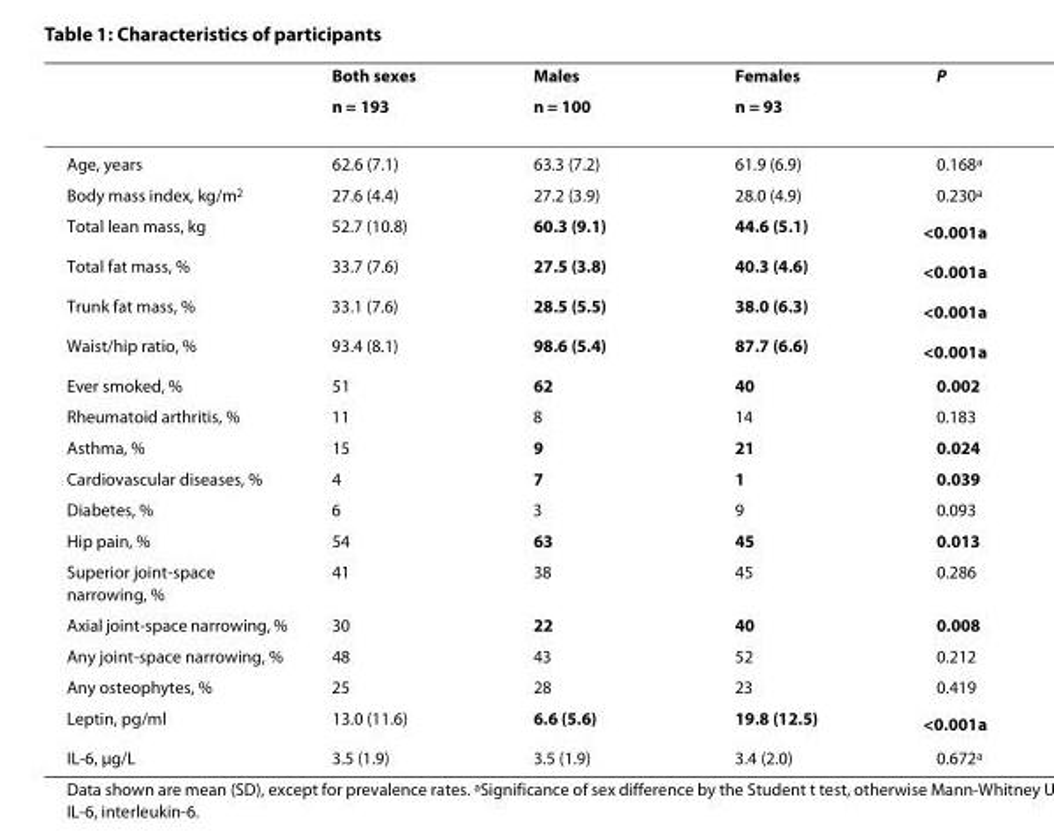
<table><thead><tr><td rowspan="2"></td><td rowspan="2">Both sexes n = 193</td><td rowspan="2">Males n = 100</td><td rowspan="2">Females n = 93</td><td rowspan="2">P</td></tr><tr></tr></thead><tbody><tr><td>Age, years</td><td>62.6 (7.1)</td><td>63.3 (7.2)</td><td>61.9 (6.9)</td><td>0.168<sup>a</sup></td></tr><tr><td>Body mass index, kg/m<sup>2</sup></td><td>27.6 (4.4)</td><td>27.2 (3.9)</td><td>28.0 (4.9)</td><td>0.230<sup>a</sup></td></tr><tr><td>Total lean mass, kg</td><td>52.7 (10.8)</td><td>60.3 (9.1)</td><td>44.6 (5.1)</td><td>&lt;0.001<sup>a</sup></td></tr><tr><td>Total fat mass, %</td><td>33.7 (7.6)</td><td>27.5 (3.8)</td><td>40.3 (4.6)</td><td>&lt;0.001<sup>a</sup></td></tr><tr><td>Trunk fat mass, %</td><td>33.1 (7.6)</td><td>28.5 (5.5)</td><td>38.0 (6.3)</td><td>&lt;0.001<sup>a</sup></td></tr><tr><td>Waist/hip ratio, %</td><td>93.4 (8.1)</td><td>98.6 (5.4)</td><td>87.7 (6.6)</td><td>&lt;0.001<sup>a</sup></td></tr><tr><td>Ever smoked, %</td><td>51</td><td>62</td><td>40</td><td>0.002</td></tr><tr><td>Rheumatoid arthritis, %</td><td>11</td><td>8</td><td>14</td><td>0.183</td></tr><tr><td>Asthma, %</td><td>15</td><td>9</td><td>21</td><td>0.024</td></tr><tr><td>Cardiovascular diseases, %</td><td>4</td><td>7</td><td>1</td><td>0.039</td></tr><tr><td>Diabetes, %</td><td>6</td><td>3</td><td>9</td><td>0.093</td></tr><tr><td>Hip pain, %</td><td>54</td><td>63</td><td>45</td><td>0.013</td></tr><tr><td>Superior joint-space narrowing, %</td><td>41</td><td>38</td><td>45</td><td>0.286</td></tr><tr><td>Axial joint-space narrowing, %</td><td>30</td><td>22</td><td>40</td><td>0.008</td></tr><tr><td>Any joint-space narrowing, %</td><td>48</td><td>43</td><td>52</td><td>0.212</td></tr><tr><td>Any osteophytes, %</td><td>25</td><td>28</td><td>23</td><td>0.419</td></tr><tr><td>Leptin, pg/ml</td><td>13.0 (11.6)</td><td>6.6 (5.6)</td><td>19.8 (12.5)</td><td>&lt;0.001<sup>a</sup></td></tr><tr><td>IL-6, μg/L</td><td>3.5 (1.9)</td><td>3.5 (1.9)</td><td>3.4 (2.0)</td><td>0.672<sup>a</sup></td></tr></tbody></table>